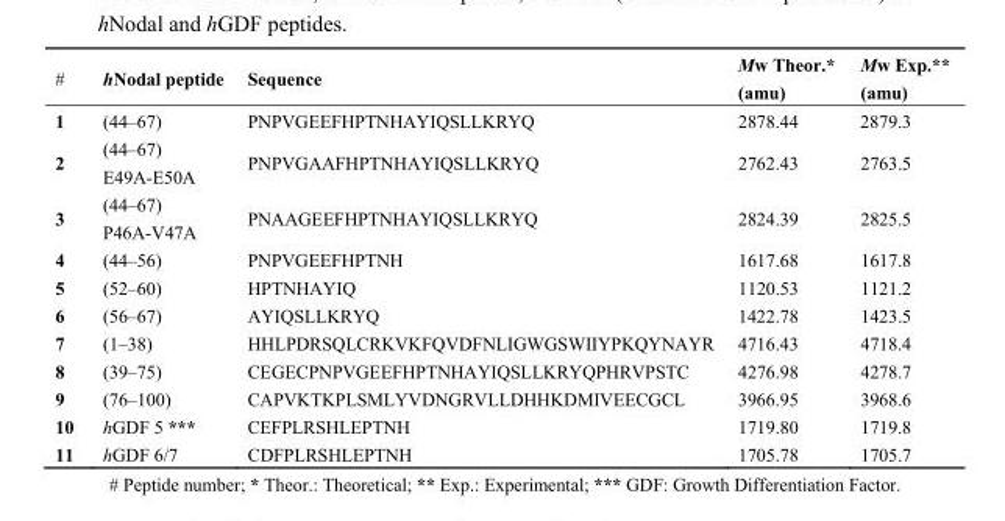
<table><thead><tr><td>#</td><td>hNodal peptide</td><td>Sequence</td><td>Mw Theor.* (amu)</td><td>Mw Exp.** (amu)</td></tr></thead><tbody><tr><td>1</td><td>(44–67)</td><td>PNPVGEEFHPTNHAYIQSLLKRYQ</td><td>2878.44</td><td>2879.3</td></tr><tr><td>2</td><td>(44–67) E49A-E50A</td><td>PNPVGAAFHPTNHAYIQSLLKRYQ</td><td>2762.43</td><td>2763.5</td></tr><tr><td>3</td><td>(44–67) P46A-V47A</td><td>PNAAGEEFHPTNHAYIQSLLKRYQ</td><td>2824.39</td><td>2825.5</td></tr><tr><td>4</td><td>(44–56)</td><td>PNPVGEEFHPTNH</td><td>1617.68</td><td>1617.8</td></tr><tr><td>5</td><td>(52–60)</td><td>HPTNHAYIQ</td><td>1120.53</td><td>1121.2</td></tr><tr><td>6</td><td>(56–67)</td><td>AYIQSLLKRYQ</td><td>1422.78</td><td>1423.5</td></tr><tr><td>7</td><td>(1–38)</td><td>HHLPDRSQLCRKVKFQVDFNLIGWGSWIIYPKQYNAYR</td><td>4716.43</td><td>4718.4</td></tr><tr><td>8</td><td>(39–75)</td><td>CEGECPNPVGEEFHPTNHAYIQSLLKRYQPHRVPSTC</td><td>4276.98</td><td>4278.7</td></tr><tr><td>9</td><td>(76–100)</td><td>CAPVKTKPLSMLYVDNGRVLLDHHKDMIVEECGCL</td><td>3966.95</td><td>3968.6</td></tr><tr><td>10</td><td>hGDF 5 ***</td><td>CEFPLRSHLEPTNH</td><td>1719.80</td><td>1719.8</td></tr><tr><td>11</td><td>hGDF 6/7</td><td>CDFPLRSHLEPTNH</td><td>1705.78</td><td>1705.7</td></tr></tbody></table>